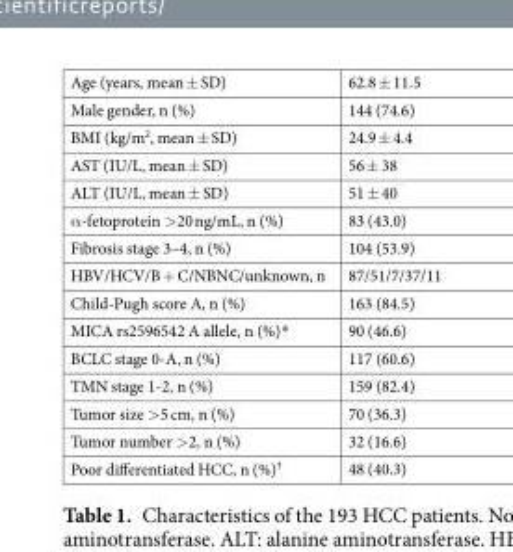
<table><tbody><tr><td>Age (years, mean ± SD)</td><td>62.8 ± 11.5</td></tr><tr><td>Male gender, n (%)</td><td>144 (74.6)</td></tr><tr><td>BMI (kg/m<sup>2</sup>, mean ± SD)</td><td>24.9 ± 4.4</td></tr><tr><td>AST (IU/L, mean ± SD)</td><td>56 ± 38</td></tr><tr><td>ALT (IU/L, mean ± SD)</td><td>51 ± 40</td></tr><tr><td>α-fetoprotein &gt;20 ng/mL, n (%)</td><td>83 (43.0)</td></tr><tr><td>Fibrosis stage 3–4, n (%)</td><td>104 (53.9)</td></tr><tr><td>HBV/HCV/B + C/NBNC/unknown, n</td><td>87/51/7/37/11</td></tr><tr><td>Child-Pugh score A, n (%)</td><td>163 (84.5)</td></tr><tr><td>MICA rs2596542 A allele, n (%)*</td><td>90 (46.6)</td></tr><tr><td>BCLC stage 0-A, n (%)</td><td>117 (60.6)</td></tr><tr><td>TMN stage 1-2, n (%)</td><td>159 (82.4)</td></tr><tr><td>Tumor size &gt;5 cm, n (%)</td><td>70 (36.3)</td></tr><tr><td>Tumor number &gt;2, n (%)</td><td>32 (16.6)</td></tr><tr><td>Poor differentiated HCC, n (%)<sup>†</sup></td><td>48 (40.3)</td></tr></tbody></table>